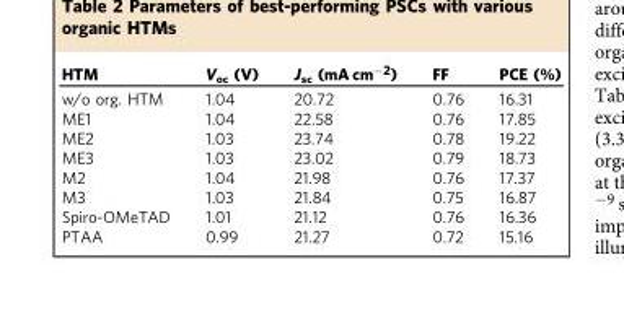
<table><thead><tr><td>HTM</td><td>V<sub>oc</sub> (V)</td><td>J<sub>sc</sub> (mA cm<sup>−2</sup>)</td><td>FF</td><td>PCE (%)</td></tr></thead><tbody><tr><td>w/o org. HTM</td><td>1.04</td><td>20.72</td><td>0.76</td><td>16.31</td></tr><tr><td>ME1</td><td>1.04</td><td>22.58</td><td>0.76</td><td>17.85</td></tr><tr><td>ME2</td><td>1.03</td><td>23.74</td><td>0.78</td><td>19.22</td></tr><tr><td>ME3</td><td>1.03</td><td>23.02</td><td>0.79</td><td>18.73</td></tr><tr><td>M2</td><td>1.04</td><td>21.98</td><td>0.76</td><td>17.37</td></tr><tr><td>M3</td><td>1.03</td><td>21.84</td><td>0.75</td><td>16.87</td></tr><tr><td>Spiro-OMeTAD</td><td>1.01</td><td>21.12</td><td>0.76</td><td>16.36</td></tr><tr><td>PTAA</td><td>0.99</td><td>21.27</td><td>0.72</td><td>15.16</td></tr></tbody></table>